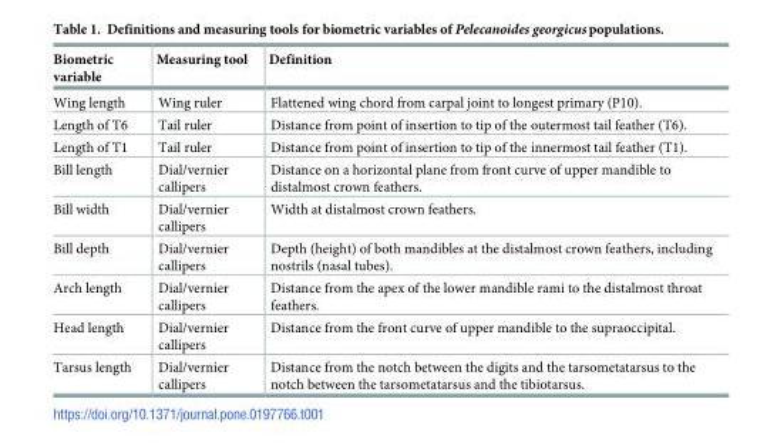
<table><thead><tr><td>Biometric variable</td><td>Measuring tool</td><td>Definition</td></tr></thead><tbody><tr><td>Wing length</td><td>Wing ruler</td><td>Flattened wing chord from carpal joint to longest primary (P10).</td></tr><tr><td>Length of T6</td><td>Tail ruler</td><td>Distance from point of insertion to tip of the outermost tail feather (T6).</td></tr><tr><td>Length of T1</td><td>Tail ruler</td><td>Distance from point of insertion to tip of the innermost tail feather (T1).</td></tr><tr><td>Bill length</td><td>Dial/vernier callipers</td><td>Distance on a horizontal plane from front curve of upper mandible to distalmost crown feathers.</td></tr><tr><td>Bill width</td><td>Dial/vernier callipers</td><td>Width at distalmost crown feathers.</td></tr><tr><td>Bill depth</td><td>Dial/vernier callipers</td><td>Depth (height) of both mandibles at the distalmost crown feathers, including nostrils (nasal tubes).</td></tr><tr><td>Arch length</td><td>Dial/vernier callipers</td><td>Distance from the apex of the lower mandible rami to the distalmost throat feathers.</td></tr><tr><td>Head length</td><td>Dial/vernier callipers</td><td>Distance from the front curve of upper mandible to the supraoccipital.</td></tr><tr><td>Tarsus length</td><td>Dial/vernier callipers</td><td>Distance from the notch between the digits and the tarsometatarsus to the notch between the tarsometatarsus and the tibiotarsus.</td></tr></tbody></table>